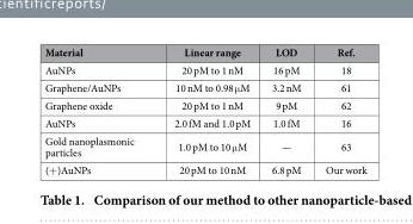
<table><thead><tr><td>Material</td><td>Linear range</td><td>LOD</td><td>Ref.</td></tr></thead><tbody><tr><td>AuNPs</td><td>20 pM to 1 nM</td><td>16 pM</td><td>18</td></tr><tr><td>Graphene/AuNPs</td><td>10 nM to 0.98 μ M</td><td>3.2 nM</td><td>61</td></tr><tr><td>Graphene oxide</td><td>20 pM to 1 nM</td><td>9 pM</td><td>62</td></tr><tr><td>AuNPs</td><td>2.0 fM and 1.0 pM</td><td>1.0 fM</td><td>16</td></tr><tr><td>Gold nanoplasmonic particles</td><td>1.0 pM to 10 μ M</td><td>—</td><td>63</td></tr><tr><td>(+ )AuNPs</td><td>20 pM to 10 nM</td><td>6.8 pM</td><td>Our work</td></tr></tbody></table>